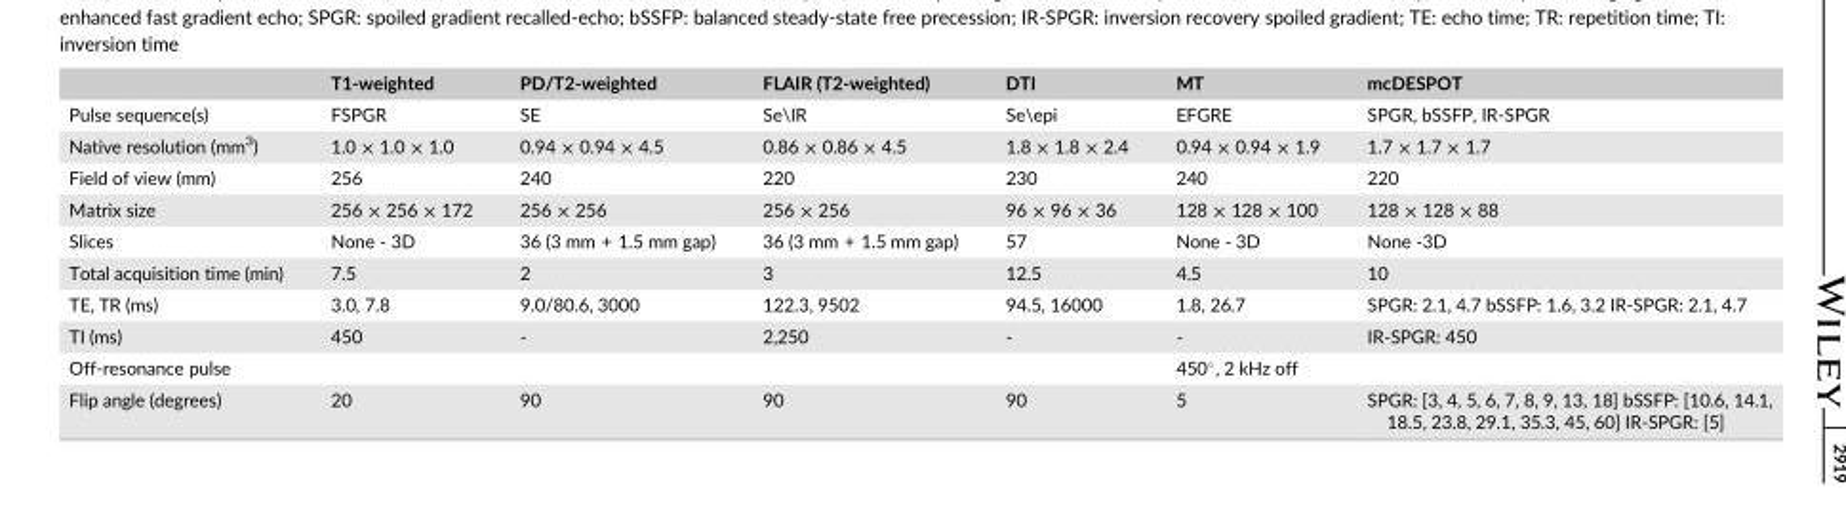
<table><thead><tr><td></td><td>T1-weighted</td><td>PD/T2-weighted</td><td>FLAIR (T2-weighted)</td><td>DTI</td><td>MT</td><td>mcDESPOT</td></tr></thead><tbody><tr><td>Pulse sequence(s)</td><td>FSPGR</td><td>SE</td><td>Se\IR</td><td>Se\epi</td><td>EFGRE</td><td>SPGR, bSSFP, IR-SPGR</td></tr><tr><td>Native resolution (mm<sup>3</sup>)</td><td>1.0 × 1.0 × 1.0</td><td>0.94 × 0.94 × 4.5</td><td>0.86 × 0.86 × 4.5</td><td>1.8 × 1.8 × 2.4</td><td>0.94 × 0.94 × 1.9</td><td>1.7 × 1.7 × 1.7</td></tr><tr><td>Field of view (mm)</td><td>256</td><td>240</td><td>220</td><td>230</td><td>240</td><td>220</td></tr><tr><td>Matrix size</td><td>256 × 256 × 172</td><td>256 × 256</td><td>256 × 256</td><td>96 × 96 × 36</td><td>128 × 128 × 100</td><td>128 × 128 × 88</td></tr><tr><td>Slices</td><td>None - 3D</td><td>36 (3 mm + 1.5 mm gap)</td><td>36 (3 mm + 1.5 mm gap)</td><td>57</td><td>None - 3D</td><td>None -3D</td></tr><tr><td>Total acquisition time (min)</td><td>7.5</td><td>2</td><td>3</td><td>12.5</td><td>4.5</td><td>10</td></tr><tr><td>TE, TR (ms)</td><td>3.0, 7.8</td><td>9.0/80.6, 3000</td><td>122.3, 9502</td><td>94.5, 16000</td><td>1.8, 26.7</td><td>SPGR: 2.1, 4.7 bSSFP: 1.6, 3.2 IR-SPGR: 2.1, 4.7</td></tr><tr><td>TI (ms)</td><td>450</td><td>-</td><td>2,250</td><td>-</td><td>-</td><td>IR-SPGR: 450</td></tr><tr><td>Off-resonance pulse</td><td></td><td></td><td></td><td></td><td>450°, 2 kHz off</td><td></td></tr><tr><td>Flip angle (degrees)</td><td>20</td><td>90</td><td>90</td><td>90</td><td>5</td><td>SPGR: [3, 4, 5, 6, 7, 8, 9, 13, 18] bSSFP: [10.6, 14.1, 18.5, 23.8, 29.1, 35.3, 45, 60] IR-SPGR: [5]</td></tr></tbody></table>